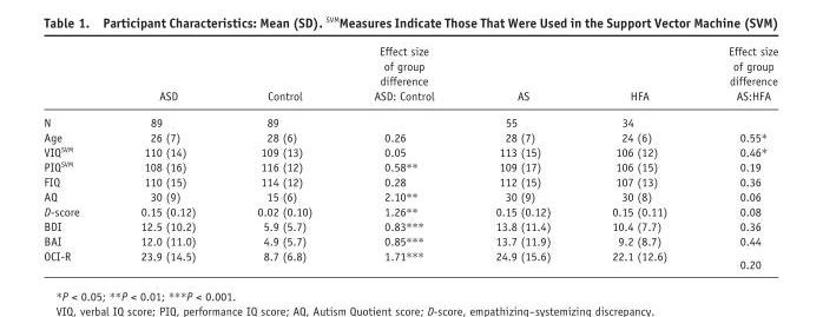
<table><thead><tr><td></td><td>ASD</td><td>Control</td><td>Effect size of group difference ASD: Control</td><td>AS</td><td>HFA</td><td>Effect size of group difference AS:HFA</td></tr></thead><tbody><tr><td>N</td><td>89</td><td>89</td><td></td><td>55</td><td>34</td><td></td></tr><tr><td>Age</td><td>26 (7)</td><td>28 (6)</td><td>0.26</td><td>28 (7)</td><td>24 (6)</td><td>0.55*</td></tr><tr><td>VIQ<sup>SVM</sup></td><td>110 (14)</td><td>109 (13)</td><td>0.05</td><td>113 (15)</td><td>106 (12)</td><td>0.46*</td></tr><tr><td>PIQ<sup>SVM</sup></td><td>108 (16)</td><td>116 (12)</td><td>0.58**</td><td>109 (17)</td><td>106 (15)</td><td>0.19</td></tr><tr><td>FIQ</td><td>110 (15)</td><td>114 (12)</td><td>0.28</td><td>112 (15)</td><td>107 (13)</td><td>0.36</td></tr><tr><td>AQ</td><td>30 (9)</td><td>15 (6)</td><td>2.10**</td><td>30 (9)</td><td>30 (8)</td><td>0.06</td></tr><tr><td>D-score</td><td>0.15 (0.12)</td><td>0.02 (0.10)</td><td>1.26**</td><td>0.15 (0.12)</td><td>0.15 (0.11)</td><td>0.08</td></tr><tr><td>BDI</td><td>12.5 (10.2)</td><td>5.9 (5.7)</td><td>0.83***</td><td>13.8 (11.4)</td><td>10.4 (7.7)</td><td>0.36</td></tr><tr><td>BAI</td><td>12.0 (11.0)</td><td>4.9 (5.7)</td><td>0.85***</td><td>13.7 (11.9)</td><td>9.2 (8.7)</td><td>0.44</td></tr><tr><td>OCI-R</td><td>23.9 (14.5)</td><td>8.7 (6.8)</td><td>1.71***</td><td>24.9 (15.6)</td><td>22.1 (12.6)</td><td>0.20</td></tr></tbody></table>